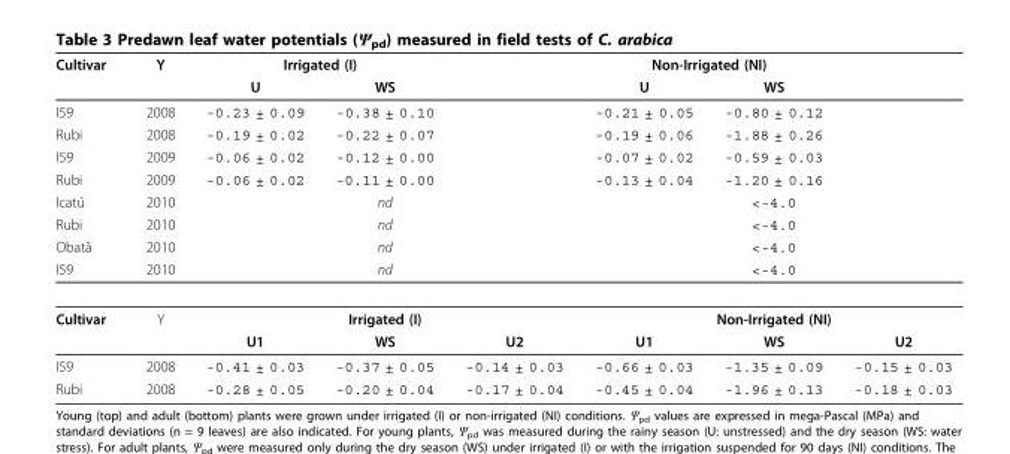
<table><thead><tr><td rowspan="2">Cultivar</td><td rowspan="2">Y</td><td colspan="2">Irrigated (I)</td><td rowspan="2"></td><td colspan="2">Non-Irrigated (NI)</td><td rowspan="2"></td></tr><tr><td>U</td><td>WS</td><td>U</td><td>WS</td></tr></thead><tbody><tr><td>I59</td><td>2008</td><td>-0.23 ± 0.09</td><td>-0.38 ± 0.10</td><td></td><td>-0.21 ± 0.05</td><td>-0.80 ± 0.12</td><td></td></tr><tr><td>Rubi</td><td>2008</td><td>-0.19 ± 0.02</td><td>-0.22 ± 0.07</td><td></td><td>-0.19 ± 0.06</td><td>-1.88 ± 0.26</td><td></td></tr><tr><td>I59</td><td>2009</td><td>-0.06 ± 0.02</td><td>-0.12 ± 0.00</td><td></td><td>-0.07 ± 0.02</td><td>-0.59 ± 0.03</td><td></td></tr><tr><td>Rubi</td><td>2009</td><td>-0.06 ± 0.02</td><td>-0.11 ± 0.00</td><td></td><td>-0.13 ± 0.04</td><td>-1.20 ± 0.16</td><td></td></tr><tr><td>Icatú</td><td>2010</td><td colspan="3">nd</td><td colspan="3">&lt;-4.0</td></tr><tr><td>Rubi</td><td>2010</td><td colspan="3">nd</td><td colspan="3">&lt;-4.0</td></tr><tr><td>Obatã</td><td>2010</td><td colspan="3">nd</td><td colspan="3">&lt;-4.0</td></tr><tr><td>I59</td><td>2010</td><td colspan="3">nd</td><td colspan="3">&lt;-4.0</td></tr><tr><td rowspan="2">Cultivar</td><td>Y</td><td colspan="3">Irrigated (I)</td><td colspan="3">Non-Irrigated (NI)</td></tr><tr><td></td><td>U1</td><td>WS</td><td>U2</td><td>U1</td><td>WS</td><td>U2</td></tr><tr><td>I59</td><td>2008</td><td>-0.41 ± 0.03</td><td>-0.37 ± 0.05</td><td>-0.14 ± 0.03</td><td>-0.66 ± 0.03</td><td>-1.35 ± 0.09</td><td>-0.15 ± 0.03</td></tr><tr><td>Rubi</td><td>2008</td><td>-0.28 ± 0.05</td><td>-0.20 ± 0.04</td><td>-0.17 ± 0.04</td><td>-0.45 ± 0.04</td><td>-1.96 ± 0.13</td><td>-0.18 ± 0.03</td></tr></tbody></table>